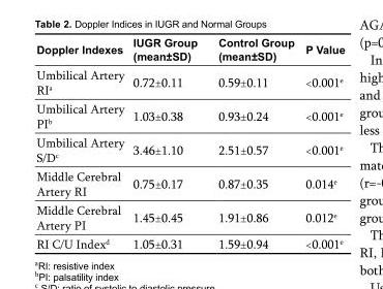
<table><thead><tr><td>Doppler Indexes</td><td>IUGR Group (mean±SD)</td><td>Control Group (mean±SD)</td><td>P Value</td></tr></thead><tbody><tr><td>Umbilical Artery RI<sup>a</sup></td><td>0.72±0.11</td><td>0.59±0.11</td><td>&lt;0.001<sup>e</sup></td></tr><tr><td>Umbilical Artery PI<sup>b</sup></td><td>1.03±0.38</td><td>0.93±0.24</td><td>&lt;0.001<sup>e</sup></td></tr><tr><td>Umbilical Artery S/D<sup>c</sup></td><td>3.46±1.10</td><td>2.51±0.57</td><td>&lt;0.001<sup>e</sup></td></tr><tr><td>Middle Cerebral Artery RI</td><td>0.75±0.17</td><td>0.87±0.35</td><td>0.014<sup>e</sup></td></tr><tr><td>Middle Cerebral Artery PI</td><td>1.45±0.45</td><td>1.91±0.86</td><td>0.012<sup>e</sup></td></tr><tr><td>RI C/U Index<sup>d</sup></td><td>1.05±0.31</td><td>1.59±0.94</td><td>&lt;0.001<sup>e</sup></td></tr></tbody></table>